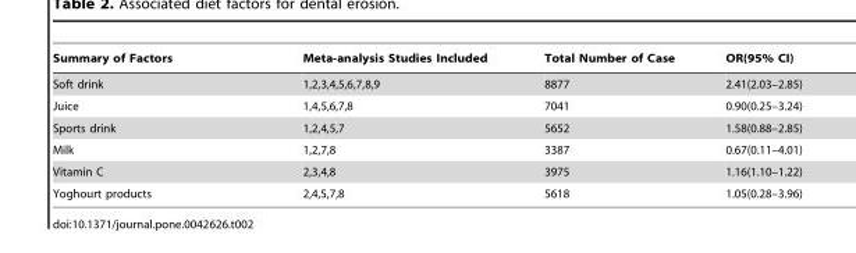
<table><thead><tr><td>Summary of Factors</td><td>Meta-analysis Studies Included</td><td>Total Number of Case</td><td>OR(95% CI)</td></tr></thead><tbody><tr><td>Soft drink</td><td>1,2,3,4,5,6,7,8,9</td><td>8877</td><td>2.41(2.03–2.85)</td></tr><tr><td>Juice</td><td>1,4,5,6,7,8</td><td>7041</td><td>0.90(0.25–3.24)</td></tr><tr><td>Sports drink</td><td>1,2,4,5,7</td><td>5652</td><td>1.58(0.88–2.85)</td></tr><tr><td>Milk</td><td>1,2,7,8</td><td>3387</td><td>0.67(0.11–4.01)</td></tr><tr><td>Vitamin C</td><td>2,3,4,8</td><td>3975</td><td>1.16(1.10–1.22)</td></tr><tr><td>Yoghourt products</td><td>2,4,5,7,8</td><td>5618</td><td>1.05(0.28–3.96)</td></tr></tbody></table>